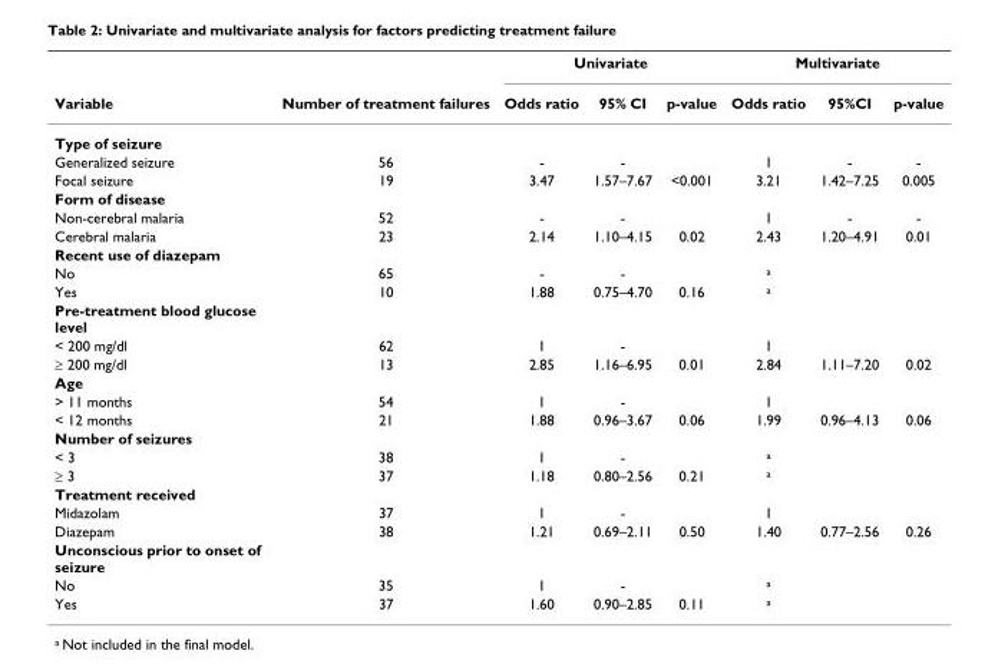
<table><thead><tr><td rowspan="2">Variable</td><td rowspan="2">Number of treatment failures</td><td colspan="3">Univariate</td><td colspan="3">Multivariate</td></tr><tr><td>Odds ratio</td><td>95% CI</td><td>p-value</td><td>Odds ratio</td><td>95%CI</td><td>p-value</td></tr></thead><tbody><tr><td colspan="8">Type of seizure</td></tr><tr><td>Generalized seizure</td><td>56</td><td>-</td><td>-</td><td></td><td>1</td><td>-</td><td>-</td></tr><tr><td>Focal seizure</td><td>19</td><td>3.47</td><td>1.57–7.67</td><td>&lt;0.001</td><td>3.21</td><td>1.42–7.25</td><td>0.005</td></tr><tr><td colspan="8">Form of disease</td></tr><tr><td>Non-cerebral malaria</td><td>52</td><td>-</td><td>-</td><td></td><td>1</td><td>-</td><td>-</td></tr><tr><td>Cerebral malaria</td><td>23</td><td>2.14</td><td>1.10–4.15</td><td>0.02</td><td>2.43</td><td>1.20–4.91</td><td>0.01</td></tr><tr><td colspan="8">Recent use of diazepam</td></tr><tr><td>No</td><td>65</td><td>-</td><td>-</td><td></td><td><sup>a</sup></td><td></td><td></td></tr><tr><td>Yes</td><td>10</td><td>1.88</td><td>0.75–4.70</td><td>0.16</td><td><sup>a</sup></td><td></td><td></td></tr><tr><td colspan="8">Pre-treatment blood glucose level</td></tr><tr><td>&lt; 200 mg/dl</td><td>62</td><td>1</td><td>-</td><td></td><td>1</td><td></td><td></td></tr><tr><td>≥ 200 mg/dl</td><td>13</td><td>2.85</td><td>1.16–6.95</td><td>0.01</td><td>2.84</td><td>1.11–7.20</td><td>0.02</td></tr><tr><td colspan="8">Age</td></tr><tr><td>&gt; 11 months</td><td>54</td><td>1</td><td>-</td><td></td><td>1</td><td></td><td></td></tr><tr><td>&lt; 12 months</td><td>21</td><td>1.88</td><td>0.96–3.67</td><td>0.06</td><td>1.99</td><td>0.96–4.13</td><td>0.06</td></tr><tr><td colspan="8">Number of seizures</td></tr><tr><td>&lt; 3</td><td>38</td><td>1</td><td>-</td><td></td><td><sup>a</sup></td><td></td><td></td></tr><tr><td>≥ 3</td><td>37</td><td>1.18</td><td>0.80–2.56</td><td>0.21</td><td><sup>a</sup></td><td></td><td></td></tr><tr><td colspan="8">Treatment received</td></tr><tr><td>Midazolam</td><td>37</td><td>1</td><td>-</td><td></td><td>1</td><td></td><td></td></tr><tr><td>Diazepam</td><td>38</td><td>1.21</td><td>0.69–2.11</td><td>0.50</td><td>1.40</td><td>0.77–2.56</td><td>0.26</td></tr><tr><td colspan="8">Unconscious prior to onset of seizure</td></tr><tr><td>No</td><td>35</td><td>1</td><td>-</td><td></td><td><sup>a</sup></td><td></td><td></td></tr><tr><td>Yes</td><td>37</td><td>1.60</td><td>0.90–2.85</td><td>0.11</td><td><sup>a</sup></td><td></td><td></td></tr></tbody></table>